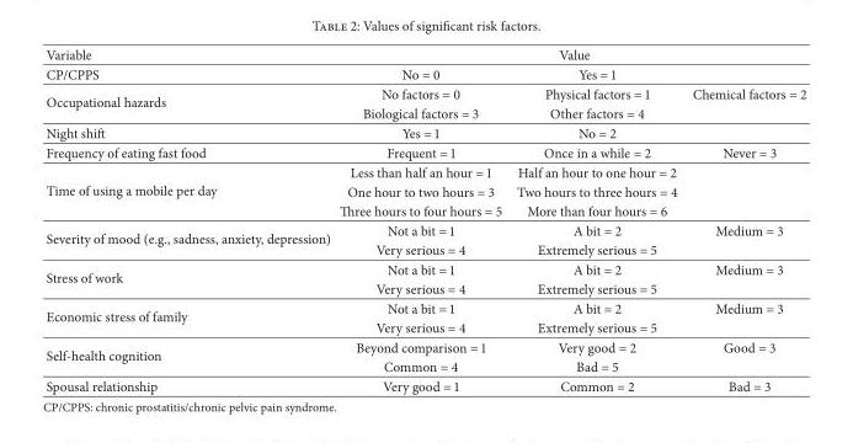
<table><thead><tr><td rowspan="2">Variable CP/CPPS</td><td colspan="3">Value</td></tr><tr><td>No = 0</td><td>Yes = 1</td><td></td></tr></thead><tbody><tr><td rowspan="2">Occupational hazards</td><td>No factors = 0</td><td>Physical factors = 1</td><td>Chemical factors = 2</td></tr><tr><td>Biological factors = 3</td><td>Other factors = 4</td><td></td></tr><tr><td>Night shift</td><td>Yes = 1</td><td>No = 2</td><td></td></tr><tr><td>Frequency of eating fast food</td><td>Frequent = 1</td><td>Once in a while = 2</td><td>Never = 3</td></tr><tr><td rowspan="3">Time of using a mobile per day</td><td>Less than half an hour = 1</td><td>Half an hour to one hour = 2</td><td></td></tr><tr><td>One hour to two hours = 3</td><td>Two hours to three hours = 4</td><td></td></tr><tr><td>Three hours to four hours = 5</td><td>More than four hours = 6</td><td></td></tr><tr><td rowspan="2">Severity of mood (e.g., sadness, anxiety, depression)</td><td>Not a bit = 1</td><td>A bit = 2</td><td>Medium = 3</td></tr><tr><td>Very serious = 4</td><td>Extremely serious = 5</td><td></td></tr><tr><td rowspan="2">Stress of work</td><td>Not a bit = 1</td><td>A bit = 2</td><td>Medium = 3</td></tr><tr><td>Very serious = 4</td><td>Extremely serious = 5</td><td></td></tr><tr><td rowspan="2">Economic stress of family</td><td>Not a bit = 1</td><td>A bit = 2</td><td>Medium = 3</td></tr><tr><td>Very serious = 4</td><td>Extremely serious = 5</td><td></td></tr><tr><td rowspan="2">Self-health cognition</td><td>Beyond comparison = 1</td><td>Very good = 2</td><td>Good = 3</td></tr><tr><td>Common = 4</td><td>Bad = 5</td><td></td></tr><tr><td>Spousal relationship</td><td>Very good = 1</td><td>Common = 2</td><td>Bad = 3</td></tr></tbody></table>